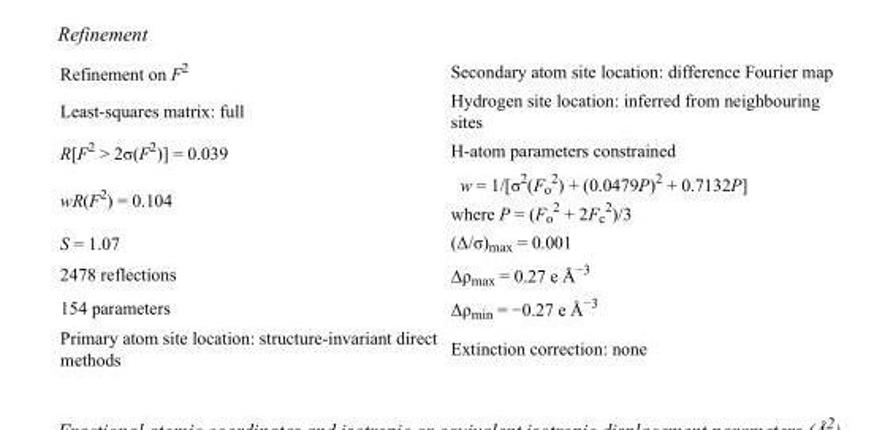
<table><tbody><tr><td>Refinement on F<sup>2</sup></td><td>Secondary atom site location: difference Fourier map</td></tr><tr><td>Least-squares matrix: full</td><td>Hydrogen site location: inferred from neighbouring sites</td></tr><tr><td>R[F<sup>2</sup> &gt; 2σ(F<sup>2</sup>)] = 0.039</td><td>H-atom parameters constrained</td></tr><tr><td>wR(F<sup>2</sup>) = 0.104</td><td>w = 1/[σ<sup>2</sup>(F<sub>o</sub> <sup>2</sup>) + (0.0479P)<sup>2</sup> + 0.7132P] where P = (F<sub>o</sub> <sup>2</sup> + 2F<sub>c</sub> <sup>2</sup>)/3</td></tr><tr><td>S = 1.07</td><td>(Δ/σ)<sub>max</sub> = 0.001</td></tr><tr><td>2478 reflections</td><td>Δρ<sub>max</sub> = 0.27 e Å<sup>−3</sup></td></tr><tr><td>154 parameters</td><td>Δρ<sub>min</sub> = −0.27 e Å<sup>−3</sup></td></tr><tr><td>Primary atom site location: structure-invariant direct methods</td><td>Extinction correction: none</td></tr></tbody></table>